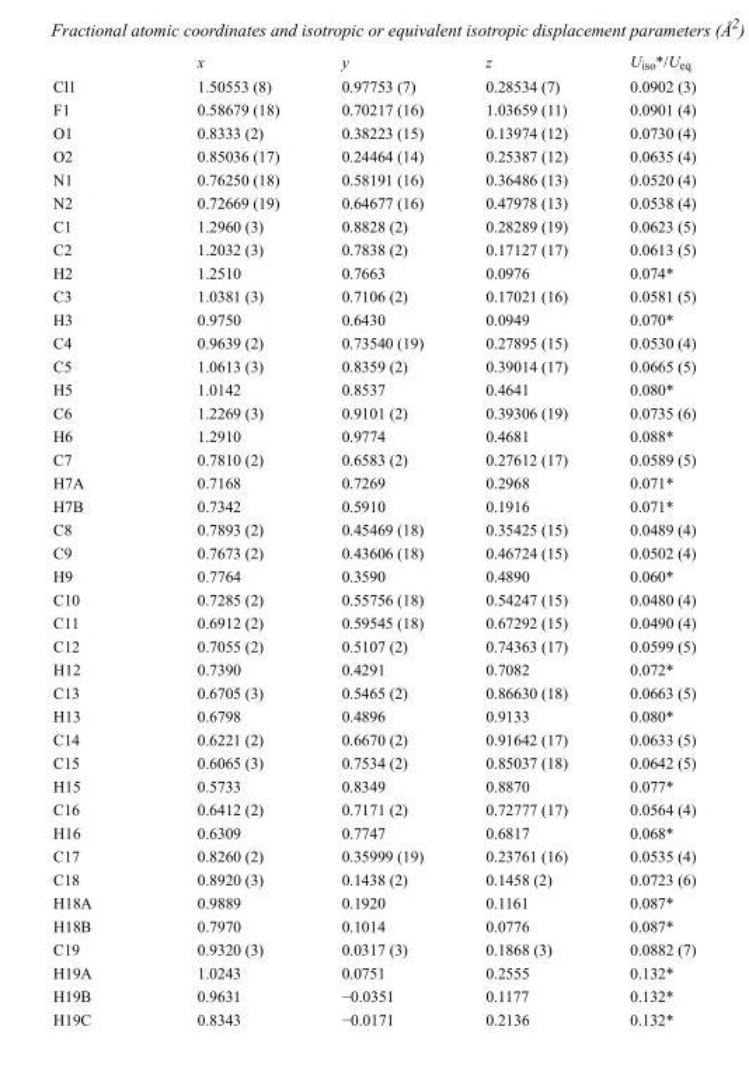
<table><thead><tr><td></td><td>x</td><td>y</td><td>z</td><td>U<sub>iso</sub>*/U<sub>eq</sub></td></tr></thead><tbody><tr><td>Cl1</td><td>1.50553 (8)</td><td>0.97753 (7)</td><td>0.28534 (7)</td><td>0.0902 (3)</td></tr><tr><td>F1</td><td>0.58679 (18)</td><td>0.70217 (16)</td><td>1.03659 (11)</td><td>0.0901 (4)</td></tr><tr><td>O1</td><td>0.8333 (2)</td><td>0.38223 (15)</td><td>0.13974 (12)</td><td>0.0730 (4)</td></tr><tr><td>O2</td><td>0.85036 (17)</td><td>0.24464 (14)</td><td>0.25387 (12)</td><td>0.0635 (4)</td></tr><tr><td>N1</td><td>0.76250 (18)</td><td>0.58191 (16)</td><td>0.36486 (13)</td><td>0.0520 (4)</td></tr><tr><td>N2</td><td>0.72669 (19)</td><td>0.64677 (16)</td><td>0.47978 (13)</td><td>0.0538 (4)</td></tr><tr><td>C1</td><td>1.2960 (3)</td><td>0.8828 (2)</td><td>0.28289 (19)</td><td>0.0623 (5)</td></tr><tr><td>C2</td><td>1.2032 (3)</td><td>0.7838 (2)</td><td>0.17127 (17)</td><td>0.0613 (5)</td></tr><tr><td>H2</td><td>1.2510</td><td>0.7663</td><td>0.0976</td><td>0.074*</td></tr><tr><td>C3</td><td>1.0381 (3)</td><td>0.7106 (2)</td><td>0.17021 (16)</td><td>0.0581 (5)</td></tr><tr><td>H3</td><td>0.9750</td><td>0.6430</td><td>0.0949</td><td>0.070*</td></tr><tr><td>C4</td><td>0.9639 (2)</td><td>0.73540 (19)</td><td>0.27895 (15)</td><td>0.0530 (4)</td></tr><tr><td>C5</td><td>1.0613 (3)</td><td>0.8359 (2)</td><td>0.39014 (17)</td><td>0.0665 (5)</td></tr><tr><td>H5</td><td>1.0142</td><td>0.8537</td><td>0.4641</td><td>0.080*</td></tr><tr><td>C6</td><td>1.2269 (3)</td><td>0.9101 (2)</td><td>0.39306 (19)</td><td>0.0735 (6)</td></tr><tr><td>H6</td><td>1.2910</td><td>0.9774</td><td>0.4681</td><td>0.088*</td></tr><tr><td>C7</td><td>0.7810 (2)</td><td>0.6583 (2)</td><td>0.27612 (17)</td><td>0.0589 (5)</td></tr><tr><td>H7A</td><td>0.7168</td><td>0.7269</td><td>0.2968</td><td>0.071*</td></tr><tr><td>H7B</td><td>0.7342</td><td>0.5910</td><td>0.1916</td><td>0.071*</td></tr><tr><td>C8</td><td>0.7893 (2)</td><td>0.45469 (18)</td><td>0.35425 (15)</td><td>0.0489 (4)</td></tr><tr><td>C9</td><td>0.7673 (2)</td><td>0.43606 (18)</td><td>0.46724 (15)</td><td>0.0502 (4)</td></tr><tr><td>H9</td><td>0.7764</td><td>0.3590</td><td>0.4890</td><td>0.060*</td></tr><tr><td>C10</td><td>0.7285 (2)</td><td>0.55756 (18)</td><td>0.54247 (15)</td><td>0.0480 (4)</td></tr><tr><td>C11</td><td>0.6912 (2)</td><td>0.59545 (18)</td><td>0.67292 (15)</td><td>0.0490 (4)</td></tr><tr><td>C12</td><td>0.7055 (2)</td><td>0.5107 (2)</td><td>0.74363 (17)</td><td>0.0599 (5)</td></tr><tr><td>H12</td><td>0.7390</td><td>0.4291</td><td>0.7082</td><td>0.072*</td></tr><tr><td>C13</td><td>0.6705 (3)</td><td>0.5465 (2)</td><td>0.86630 (18)</td><td>0.0663 (5)</td></tr><tr><td>H13</td><td>0.6798</td><td>0.4896</td><td>0.9133</td><td>0.080*</td></tr><tr><td>C14</td><td>0.6221 (2)</td><td>0.6670 (2)</td><td>0.91642 (17)</td><td>0.0633 (5)</td></tr><tr><td>C15</td><td>0.6065 (3)</td><td>0.7534 (2)</td><td>0.85037 (18)</td><td>0.0642 (5)</td></tr><tr><td>H15</td><td>0.5733</td><td>0.8349</td><td>0.8870</td><td>0.077*</td></tr><tr><td>C16</td><td>0.6412 (2)</td><td>0.7171 (2)</td><td>0.72777 (17)</td><td>0.0564 (4)</td></tr><tr><td>H16</td><td>0.6309</td><td>0.7747</td><td>0.6817</td><td>0.068*</td></tr><tr><td>C17</td><td>0.8260 (2)</td><td>0.35999 (19)</td><td>0.23761 (16)</td><td>0.0535 (4)</td></tr><tr><td>C18</td><td>0.8920 (3)</td><td>0.1438 (2)</td><td>0.1458 (2)</td><td>0.0723 (6)</td></tr><tr><td>H18A</td><td>0.9889</td><td>0.1920</td><td>0.1161</td><td>0.087*</td></tr><tr><td>H18B</td><td>0.7970</td><td>0.1014</td><td>0.0776</td><td>0.087*</td></tr><tr><td>C19</td><td>0.9320 (3)</td><td>0.0317 (3)</td><td>0.1868 (3)</td><td>0.0882 (7)</td></tr><tr><td>H19A</td><td>1.0243</td><td>0.0751</td><td>0.2555</td><td>0.132*</td></tr><tr><td>H19B</td><td>0.9631</td><td>−0.0351</td><td>0.1177</td><td>0.132*</td></tr><tr><td>H19C</td><td>0.8343</td><td>−0.0171</td><td>0.2136</td><td>0.132*</td></tr></tbody></table>